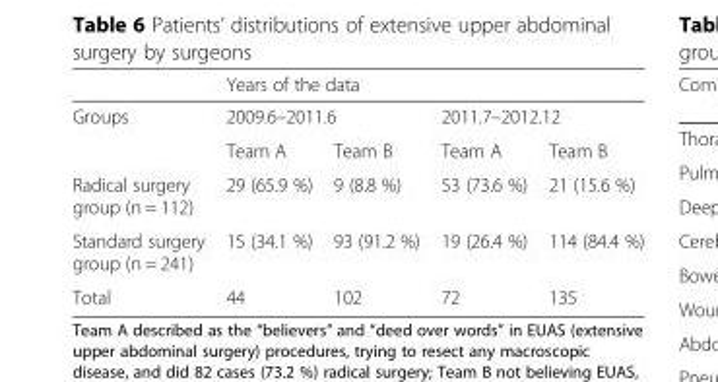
<table><thead><tr><td rowspan="3">Groups</td><td colspan="4">Years of the data</td></tr><tr><td colspan="2">2009.6–2011.6</td><td colspan="2">2011.7–2012.12</td></tr><tr><td>Team A</td><td>Team B</td><td>Team A</td><td>Team B</td></tr></thead><tbody><tr><td>Radical surgery group (n = 112)</td><td>29 (65.9 %)</td><td>9 (8.8 %)</td><td>53 (73.6 %)</td><td>21 (15.6 %)</td></tr><tr><td>Standard surgery group (n = 241)</td><td>15 (34.1 %)</td><td>93 (91.2 %)</td><td>19 (26.4 %)</td><td>114 (84.4 %)</td></tr><tr><td>Total</td><td>44</td><td>102</td><td>72</td><td>135</td></tr></tbody></table>